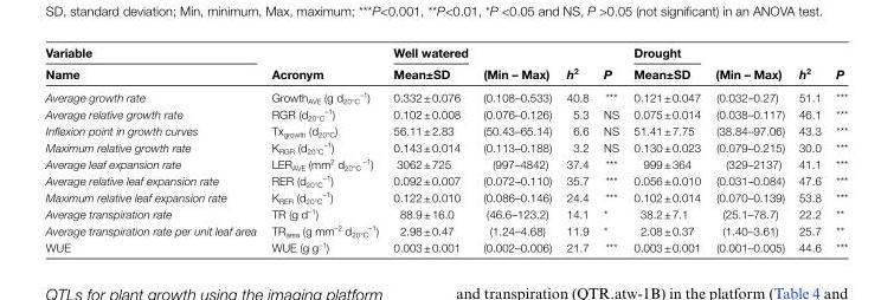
<table><thead><tr><td rowspan="2">Variable Name</td><td rowspan="2">Acronym</td><td rowspan="2">Well watered Mean±SD</td><td rowspan="2">(Min – Max)</td><td rowspan="2">h<sup>2</sup></td><td rowspan="2">P</td><td rowspan="2">Drought Mean±SD</td><td rowspan="2">(Min – Max)</td><td rowspan="2">h<sup>2</sup></td><td rowspan="2">P</td></tr><tr></tr></thead><tbody><tr><td>Average growth rate</td><td>Growth<sub>AVE</sub> (g d<sub>20°C</sub> <sup>–1</sup>)</td><td>0.332 ± 0.076</td><td>(0.108–0.533)</td><td>40.8</td><td>***</td><td>0.121 ± 0.047</td><td>(0.032–0.27)</td><td>51.1</td><td>***</td></tr><tr><td>Average relative growth rate</td><td>RGR (d<sub>20°C</sub> <sup>–1</sup>)</td><td>0.102 ± 0.008</td><td>(0.076–0.126)</td><td>5.3</td><td>NS</td><td>0.075 ± 0.014</td><td>(0.038–0.117)</td><td>46.1</td><td>***</td></tr><tr><td>Inflexion point in growth curves</td><td>Tx<sub>growth</sub> (d<sub>20°C</sub>)</td><td>56.11 ± 2.83</td><td>(50.43–65.14)</td><td>6.6</td><td>NS</td><td>51.41 ± 7.75</td><td>(38.84–97.06)</td><td>43.3</td><td>***</td></tr><tr><td>Maximum relative growth rate</td><td>K<sub>RGR</sub> (d<sub>20°C</sub> <sup>–1</sup>)</td><td>0.143 ± 0.014</td><td>(0.113–0.188)</td><td>3.2</td><td>NS</td><td>0.130 ± 0.023</td><td>(0.079–0.215)</td><td>30.0</td><td>***</td></tr><tr><td>Average leaf expansion rate</td><td>LER<sub>AVE</sub> (mm<sup>2</sup> d<sub>20°C</sub> <sup>–1</sup>)</td><td>3062 ± 725</td><td>(997–4842)</td><td>37.4</td><td>***</td><td>999 ± 364</td><td>(329–2137)</td><td>41.1</td><td>***</td></tr><tr><td>Average relative leaf expansion rate</td><td>RER (d<sub>20°C</sub> <sup>–1</sup>)</td><td>0.092 ± 0.007</td><td>(0.072–0.110)</td><td>35.7</td><td>***</td><td>0.056 ± 0.010</td><td>(0.031–0.084)</td><td>47.6</td><td>***</td></tr><tr><td>Maximum relative leaf expansion rate</td><td>K<sub>RER</sub> (d<sub>20°C</sub> <sup>–1</sup>)</td><td>0.122 ± 0.010</td><td>(0.086–0.146)</td><td>24.4</td><td>***</td><td>0.102 ± 0.014</td><td>(0.070–0.139)</td><td>53.8</td><td>***</td></tr><tr><td>Average transpiration rate</td><td>TR (g d<sup>–1</sup>)</td><td>88.9 ± 16.0</td><td>(46.6–123.2)</td><td>14.1</td><td>*</td><td>38.2 ± 7.1</td><td>(25.1–78.7)</td><td>22.2</td><td>**</td></tr><tr><td>Average transpiration rate per unit leaf area</td><td>TR<sub>area</sub> (g mm<sup>–2</sup> d<sub>20°C</sub> <sup>–1</sup>)</td><td>2.98 ± 0.47</td><td>(1.24–4.68)</td><td>11.9</td><td>*</td><td>2.08 ± 0.37</td><td>(1.40–3.61)</td><td>25.7</td><td>**</td></tr><tr><td>WUE</td><td>WUE (g g<sup>–1</sup>)</td><td>0.003 ± 0.001</td><td>(0.002–0.006)</td><td>21.7</td><td>***</td><td>0.003 ± 0.001</td><td>(0.001–0.005)</td><td>44.6</td><td>***</td></tr></tbody></table>